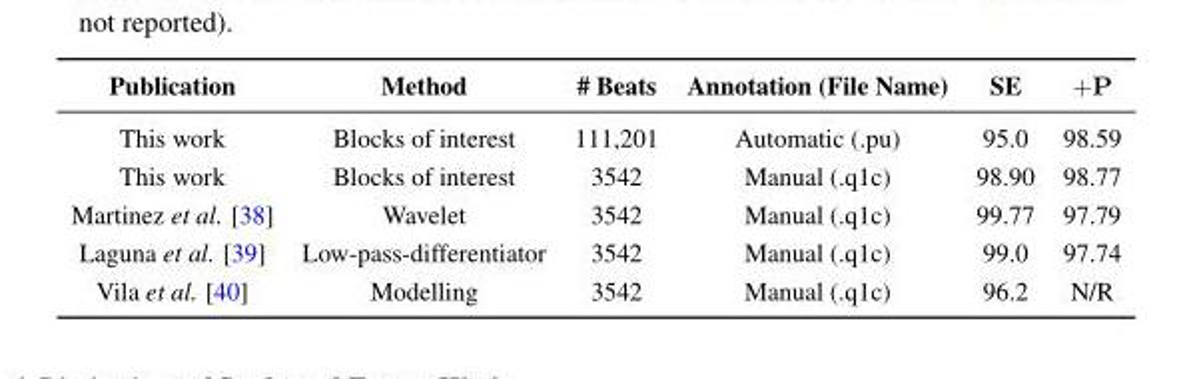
<table><thead><tr><td>Publication</td><td>Method</td><td># Beats</td><td>Annotation (File Name)</td><td>SE</td><td>+P</td></tr></thead><tbody><tr><td>This work</td><td>Blocks of interest</td><td>111,201</td><td>Automatic (.pu)</td><td>95.0</td><td>98.59</td></tr><tr><td>This work</td><td>Blocks of interest</td><td>3542</td><td>Manual (.q1c)</td><td>98.90</td><td>98.77</td></tr><tr><td>Martinez et al. [38]</td><td>Wavelet</td><td>3542</td><td>Manual (.q1c)</td><td>99.77</td><td>97.79</td></tr><tr><td>Laguna et al. [39]</td><td>Low-pass-differentiator</td><td>3542</td><td>Manual (.q1c)</td><td>99.0</td><td>97.74</td></tr><tr><td>Vila et al. [40]</td><td>Modelling</td><td>3542</td><td>Manual (.q1c)</td><td>96.2</td><td>N/R</td></tr></tbody></table>